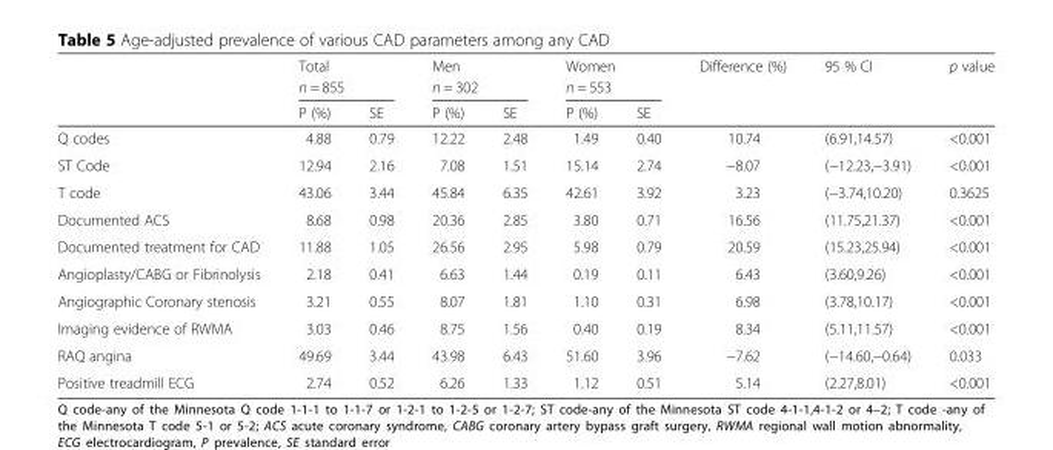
<table><thead><tr><td rowspan="3"></td><td rowspan="2" colspan="2">Total n = 855</td><td rowspan="2" colspan="2">Men n = 302</td><td rowspan="2" colspan="2">Women n = 553</td><td rowspan="3">Difference (%)</td><td rowspan="3">95 % CI</td><td rowspan="3">p value</td></tr><tr></tr><tr><td>P (%)</td><td>SE</td><td>P (%)</td><td>SE</td><td>P (%)</td><td>SE</td></tr></thead><tbody><tr><td>Q codes</td><td>4.88</td><td>0.79</td><td>12.22</td><td>2.48</td><td>1.49</td><td>0.40</td><td>10.74</td><td>(6.91,14.57)</td><td>&lt;0.001</td></tr><tr><td>ST Code</td><td>12.94</td><td>2.16</td><td>7.08</td><td>1.51</td><td>15.14</td><td>2.74</td><td>−8.07</td><td>(−12.23,−3.91)</td><td>&lt;0.001</td></tr><tr><td>T code</td><td>43.06</td><td>3.44</td><td>45.84</td><td>6.35</td><td>42.61</td><td>3.92</td><td>3.23</td><td>(−3.74,10.20)</td><td>0.3625</td></tr><tr><td>Documented ACS</td><td>8.68</td><td>0.98</td><td>20.36</td><td>2.85</td><td>3.80</td><td>0.71</td><td>16.56</td><td>(11.75,21.37)</td><td>&lt;0.001</td></tr><tr><td>Documented treatment for CAD</td><td>11.88</td><td>1.05</td><td>26.56</td><td>2.95</td><td>5.98</td><td>0.79</td><td>20.59</td><td>(15.23,25.94)</td><td>&lt;0.001</td></tr><tr><td>Angioplasty/CABG or Fibrinolysis</td><td>2.18</td><td>0.41</td><td>6.63</td><td>1.44</td><td>0.19</td><td>0.11</td><td>6.43</td><td>(3.60,9.26)</td><td>&lt;0.001</td></tr><tr><td>Angiographic Coronary stenosis</td><td>3.21</td><td>0.55</td><td>8.07</td><td>1.81</td><td>1.10</td><td>0.31</td><td>6.98</td><td>(3.78,10.17)</td><td>&lt;0.001</td></tr><tr><td>Imaging evidence of RWMA</td><td>3.03</td><td>0.46</td><td>8.75</td><td>1.56</td><td>0.40</td><td>0.19</td><td>8.34</td><td>(5.11,11.57)</td><td>&lt;0.001</td></tr><tr><td>RAQ angina</td><td>49.69</td><td>3.44</td><td>43.98</td><td>6.43</td><td>51.60</td><td>3.96</td><td>−7.62</td><td>(−14.60,−0.64)</td><td>0.033</td></tr><tr><td>Positive treadmill ECG</td><td>2.74</td><td>0.52</td><td>6.26</td><td>1.33</td><td>1.12</td><td>0.51</td><td>5.14</td><td>(2.27,8.01)</td><td>&lt;0.001</td></tr></tbody></table>